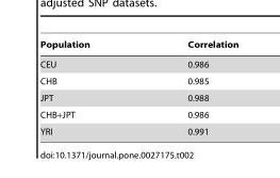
<table><thead><tr><td>Population</td><td>Correlation</td></tr></thead><tbody><tr><td>CEU</td><td>0.986</td></tr><tr><td>CHB</td><td>0.985</td></tr><tr><td>JPT</td><td>0.988</td></tr><tr><td>CHB+JPT</td><td>0.986</td></tr><tr><td>YRI</td><td>0.991</td></tr></tbody></table>